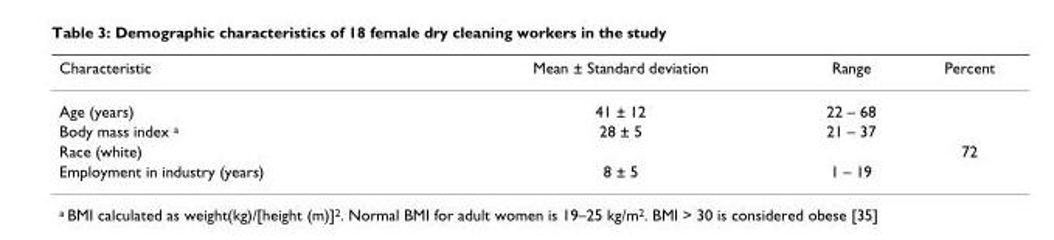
<table><thead><tr><td>Characteristic</td><td>Mean ± Standard deviation</td><td>Range</td><td>Percent</td></tr></thead><tbody><tr><td>Age (years)</td><td>41 ± 12</td><td>22 – 68</td><td></td></tr><tr><td>Body mass index <sup>a</sup></td><td>28 ± 5</td><td>21 – 37</td><td></td></tr><tr><td>Race (white)</td><td></td><td></td><td>72</td></tr><tr><td>Employment in industry (years)</td><td>8 ± 5</td><td>1 – 19</td><td></td></tr></tbody></table>